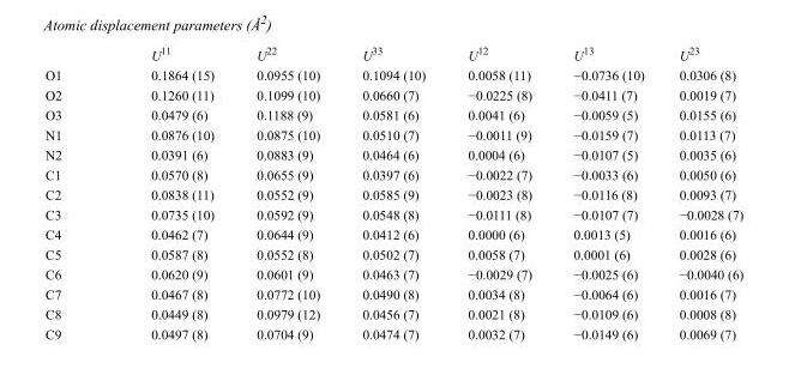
<table><thead><tr><td></td><td>U<sup>11</sup></td><td>U<sup>22</sup></td><td>U<sup>33</sup></td><td>U<sup>12</sup></td><td>U<sup>13</sup></td><td>U<sup>23</sup></td></tr></thead><tbody><tr><td>O1</td><td>0.1864 (15)</td><td>0.0955 (10)</td><td>0.1094 (10)</td><td>0.0058 (11)</td><td>−0.0736 (10)</td><td>0.0306 (8)</td></tr><tr><td>O2</td><td>0.1260 (11)</td><td>0.1099 (10)</td><td>0.0660 (7)</td><td>−0.0225 (8)</td><td>−0.0411 (7)</td><td>0.0019 (7)</td></tr><tr><td>O3</td><td>0.0479 (6)</td><td>0.1188 (9)</td><td>0.0581 (6)</td><td>0.0041 (6)</td><td>−0.0059 (5)</td><td>0.0155 (6)</td></tr><tr><td>N1</td><td>0.0876 (10)</td><td>0.0875 (10)</td><td>0.0510 (7)</td><td>−0.0011 (9)</td><td>−0.0159 (7)</td><td>0.0113 (7)</td></tr><tr><td>N2</td><td>0.0391 (6)</td><td>0.0883 (9)</td><td>0.0464 (6)</td><td>0.0004 (6)</td><td>−0.0107 (5)</td><td>0.0035 (6)</td></tr><tr><td>C1</td><td>0.0570 (8)</td><td>0.0655 (9)</td><td>0.0397 (6)</td><td>−0.0022 (7)</td><td>−0.0033 (6)</td><td>0.0050 (6)</td></tr><tr><td>C2</td><td>0.0838 (11)</td><td>0.0552 (9)</td><td>0.0585 (9)</td><td>−0.0023 (8)</td><td>−0.0116 (8)</td><td>0.0093 (7)</td></tr><tr><td>C3</td><td>0.0735 (10)</td><td>0.0592 (9)</td><td>0.0548 (8)</td><td>−0.0111 (8)</td><td>−0.0107 (7)</td><td>−0.0028 (7)</td></tr><tr><td>C4</td><td>0.0462 (7)</td><td>0.0644 (9)</td><td>0.0412 (6)</td><td>0.0000 (6)</td><td>0.0013 (5)</td><td>0.0016 (6)</td></tr><tr><td>C5</td><td>0.0587 (8)</td><td>0.0552 (8)</td><td>0.0502 (7)</td><td>0.0058 (7)</td><td>0.0001 (6)</td><td>0.0028 (6)</td></tr><tr><td>C6</td><td>0.0620 (9)</td><td>0.0601 (9)</td><td>0.0463 (7)</td><td>−0.0029 (7)</td><td>−0.0025 (6)</td><td>−0.0040 (6)</td></tr><tr><td>C7</td><td>0.0467 (8)</td><td>0.0772 (10)</td><td>0.0490 (8)</td><td>0.0034 (8)</td><td>−0.0064 (6)</td><td>0.0016 (7)</td></tr><tr><td>C8</td><td>0.0449 (8)</td><td>0.0979 (12)</td><td>0.0456 (7)</td><td>0.0021 (8)</td><td>−0.0109 (6)</td><td>0.0008 (8)</td></tr><tr><td>C9</td><td>0.0497 (8)</td><td>0.0704 (9)</td><td>0.0474 (7)</td><td>0.0032 (7)</td><td>−0.0149 (6)</td><td>0.0069 (7)</td></tr></tbody></table>